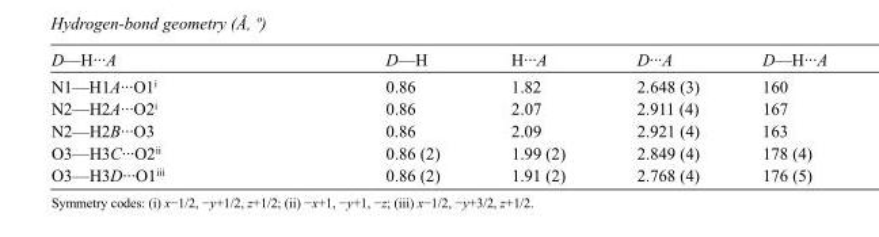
<table><tbody><tr><td>D—H···A</td><td>D—H</td><td>H···A</td><td>D···A</td><td>D—H···A</td></tr><tr><td>N1—H1A···O1<sup>i</sup></td><td>0.86</td><td>1.82</td><td>2.648 (3)</td><td>160</td></tr><tr><td>N2—H2A···O2<sup>i</sup></td><td>0.86</td><td>2.07</td><td>2.911 (4)</td><td>167</td></tr><tr><td>N2—H2B···O3</td><td>0.86</td><td>2.09</td><td>2.921 (4)</td><td>163</td></tr><tr><td>O3—H3C···O2<sup>ii</sup></td><td>0.86 (2)</td><td>1.99 (2)</td><td>2.849 (4)</td><td>178 (4)</td></tr><tr><td>O3—H3D···O1<sup>iii</sup></td><td>0.86 (2)</td><td>1.91 (2)</td><td>2.768 (4)</td><td>176 (5)</td></tr></tbody></table>